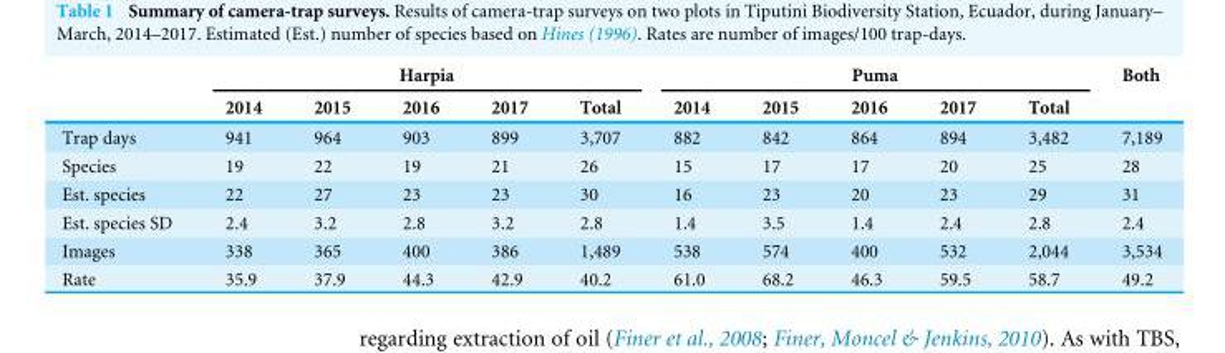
<table><thead><tr><td rowspan="2"></td><td colspan="5">Harpia</td><td colspan="5">Puma</td><td rowspan="2">Both</td></tr><tr><td>2014</td><td>2015</td><td>2016</td><td>2017</td><td>Total</td><td>2014</td><td>2015</td><td>2016</td><td>2017</td><td>Total</td></tr></thead><tbody><tr><td>Trap days</td><td>941</td><td>964</td><td>903</td><td>899</td><td>3,707</td><td>882</td><td>842</td><td>864</td><td>894</td><td>3,482</td><td>7,189</td></tr><tr><td>Species</td><td>19</td><td>22</td><td>19</td><td>21</td><td>26</td><td>15</td><td>17</td><td>17</td><td>20</td><td>25</td><td>28</td></tr><tr><td>Est. species</td><td>22</td><td>27</td><td>23</td><td>23</td><td>30</td><td>16</td><td>23</td><td>20</td><td>23</td><td>29</td><td>31</td></tr><tr><td>Est. species SD</td><td>2.4</td><td>3.2</td><td>2.8</td><td>3.2</td><td>2.8</td><td>1.4</td><td>3.5</td><td>1.4</td><td>2.4</td><td>2.8</td><td>2.4</td></tr><tr><td>Images</td><td>338</td><td>365</td><td>400</td><td>386</td><td>1,489</td><td>538</td><td>574</td><td>400</td><td>532</td><td>2,044</td><td>3,534</td></tr><tr><td>Rate</td><td>35.9</td><td>37.9</td><td>44.3</td><td>42.9</td><td>40.2</td><td>61.0</td><td>68.2</td><td>46.3</td><td>59.5</td><td>58.7</td><td>49.2</td></tr></tbody></table>